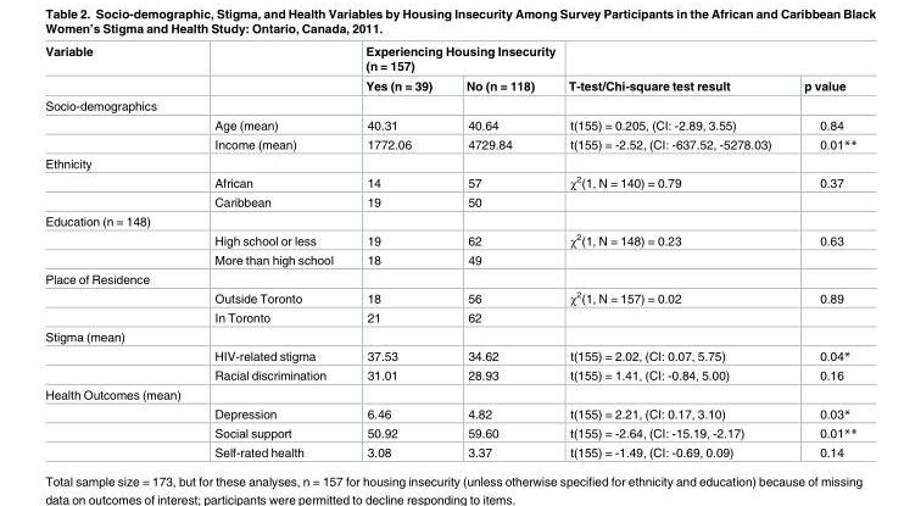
<table><thead><tr><td rowspan="2">Variable</td><td rowspan="2"></td><td colspan="2">Experiencing Housing Insecurity (n = 157)</td><td rowspan="2">T-test/Chi-square test result</td><td rowspan="2">p value</td></tr><tr><td>Yes (n = 39)</td><td>No (n = 118)</td></tr></thead><tbody><tr><td colspan="6">Socio-demographics</td></tr><tr><td></td><td>Age (mean)</td><td>40.31</td><td>40.64</td><td>t(155) = 0.205, (CI: -2.89, 3.55)</td><td>0.84</td></tr><tr><td></td><td>Income (mean)</td><td>1772.06</td><td>4729.84</td><td>t(155) = -2.52, (CI: -637.52, -5278.03)</td><td>0.01**</td></tr><tr><td colspan="6">Ethnicity</td></tr><tr><td></td><td>African</td><td>14</td><td>57</td><td>χ<sup>2</sup>(1, N = 140) = 0.79</td><td>0.37</td></tr><tr><td></td><td>Caribbean</td><td>19</td><td>50</td><td></td><td></td></tr><tr><td colspan="6">Education (n = 148)</td></tr><tr><td></td><td>High school or less</td><td>19</td><td>62</td><td>χ<sup>2</sup>(1, N = 148) = 0.23</td><td>0.63</td></tr><tr><td></td><td>More than high school</td><td>18</td><td>49</td><td></td><td></td></tr><tr><td colspan="6">Place of Residence</td></tr><tr><td></td><td>Outside Toronto</td><td>18</td><td>56</td><td>χ<sup>2</sup>(1, N = 157) = 0.02</td><td>0.89</td></tr><tr><td></td><td>In Toronto</td><td>21</td><td>62</td><td></td><td></td></tr><tr><td colspan="6">Stigma (mean)</td></tr><tr><td></td><td>HIV-related stigma</td><td>37.53</td><td>34.62</td><td>t(155) = 2.02, (CI: 0.07, 5.75)</td><td>0.04*</td></tr><tr><td></td><td>Racial discrimination</td><td>31.01</td><td>28.93</td><td>t(155) = 1.41, (CI: -0.84, 5.00)</td><td>0.16</td></tr><tr><td colspan="6">Health Outcomes (mean)</td></tr><tr><td></td><td>Depression</td><td>6.46</td><td>4.82</td><td>t(155) = 2.21, (CI: 0.17, 3.10)</td><td>0.03*</td></tr><tr><td></td><td>Social support</td><td>50.92</td><td>59.60</td><td>t(155) = -2.64, (CI: -15.19, -2.17)</td><td>0.01**</td></tr><tr><td></td><td>Self-rated health</td><td>3.08</td><td>3.37</td><td>t(155) = -1.49, (CI: -0.69, 0.09)</td><td>0.14</td></tr></tbody></table>